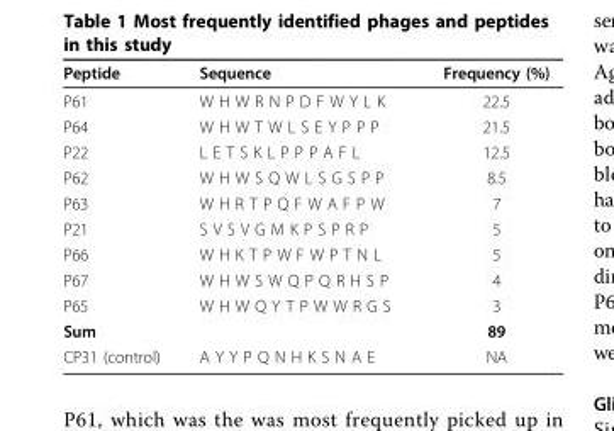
<table><thead><tr><td>Peptide</td><td>Sequence</td><td>Frequency (%)</td></tr></thead><tbody><tr><td>P61</td><td>W H W R N P D F W Y L K</td><td>22.5</td></tr><tr><td>P64</td><td>W H W T W L S E Y P P P</td><td>21.5</td></tr><tr><td>P22</td><td>L E T S K L P P P A F L</td><td>12.5</td></tr><tr><td>P62</td><td>W H W S Q W L S G S P P</td><td>8.5</td></tr><tr><td>P63</td><td>W H R T P Q F W A F P W</td><td>7</td></tr><tr><td>P21</td><td>S V S V G M K P S P R P</td><td>5</td></tr><tr><td>P66</td><td>W H K T P W F W P T N L</td><td>5</td></tr><tr><td>P67</td><td>W H W S W Q P Q R H S P</td><td>4</td></tr><tr><td>P65</td><td>W H W Q Y T P W W R G S</td><td>3</td></tr><tr><td>Sum</td><td></td><td>89</td></tr><tr><td>CP31 (control)</td><td>A Y Y P Q N H K S N A E</td><td>NA</td></tr></tbody></table>